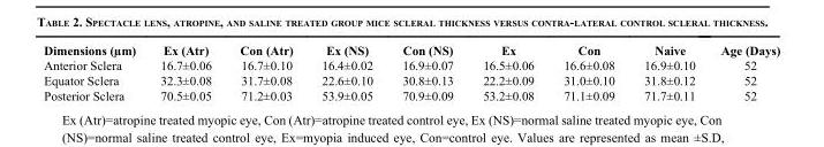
<table><thead><tr><td>Dimensions (µm)</td><td>Ex (Atr)</td><td>Con (Atr)</td><td>Ex (NS)</td><td>Con (NS)</td><td>Ex</td><td>Con</td><td>Naive</td><td>Age (Days)</td></tr></thead><tbody><tr><td>Anterior Sclera</td><td>16.7±0.06</td><td>16.7±0.10</td><td>16.4±0.02</td><td>16.9±0.07</td><td>16.5±0.06</td><td>16.6±0.08</td><td>16.9±0.10</td><td>52</td></tr><tr><td>Equator Sclera</td><td>32.3±0.08</td><td>31.7±0.08</td><td>22.6±0.10</td><td>30.8±0.13</td><td>22.2±0.09</td><td>31.0±0.10</td><td>31.8±0.12</td><td>52</td></tr><tr><td>Posterior Sclera</td><td>70.5±0.05</td><td>71.2±0.03</td><td>53.9±0.05</td><td>70.9±0.09</td><td>53.2±0.08</td><td>71.1±0.09</td><td>71.7±0.11</td><td>52</td></tr></tbody></table>